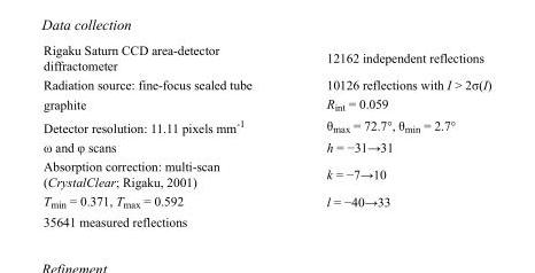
<table><tbody><tr><td>Rigaku Saturn CCD area-detector diffractometer</td><td>12162 independent reflections</td></tr><tr><td>Radiation source: fine-focus sealed tube</td><td>10126 reflections with I &gt; 2σ(I)</td></tr><tr><td>graphite</td><td>R<sub>int</sub> = 0.059</td></tr><tr><td>Detector resolution: 11.11 pixels mm<sup>-1</sup></td><td>θ<sub>max</sub> = 72.7°, θ<sub>min</sub> = 2.7°</td></tr><tr><td>ω and φ scans</td><td>h = −31→31</td></tr><tr><td>Absorption correction: multi-scan (CrystalClear; Rigaku, 2001)</td><td>k = −7→10</td></tr><tr><td>T<sub>min</sub> = 0.371, T<sub>max</sub> = 0.592</td><td>l = −40→33</td></tr><tr><td>35641 measured reflections</td><td></td></tr></tbody></table>